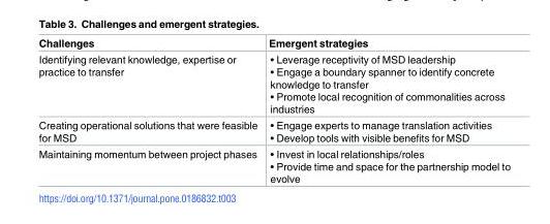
<table><thead><tr><td>Challenges</td><td>Emergent strategies</td></tr></thead><tbody><tr><td>Identifying relevant knowledge, expertise or practice to transfer</td><td>• Leverage receptivity of MSD leadership • Engage a boundary spanner to identify concrete knowledge to transfer • Promote local recognition of commonalities across industries</td></tr><tr><td>Creating operational solutions that were feasible for MSD</td><td>• Engage experts to manage translation activities • Develop tools with visible benefits for MSD</td></tr><tr><td>Maintaining momentum between project phases</td><td>• Invest in local relationships/roles • Provide time and space for the partnership model to evolve</td></tr></tbody></table>